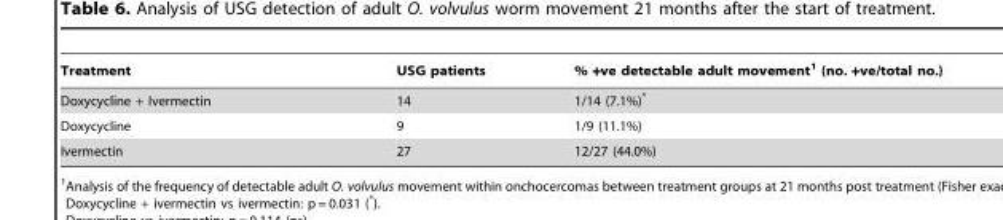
<table><thead><tr><td>Treatment</td><td>USG patients</td><td>% +ve detectable adult movement<sup>1</sup> (no. +ve/total no.)</td></tr></thead><tbody><tr><td>Doxycycline + Ivermectin</td><td>14</td><td>1/14 (7.1%)*</td></tr><tr><td>Doxycycline</td><td>9</td><td>1/9 (11.1%)</td></tr><tr><td>Ivermectin</td><td>27</td><td>12/27 (44.0%)</td></tr></tbody></table>